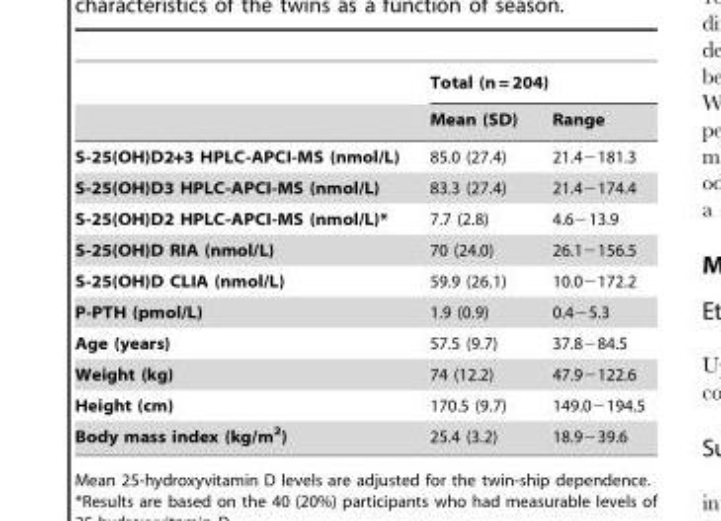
<table><thead><tr><td rowspan="2"></td><td colspan="2">Total (n = 204)</td></tr><tr><td>Mean (SD)</td><td>Range</td></tr></thead><tbody><tr><td>S-25(OH)D2+3 HPLC-APCI-MS (nmol/L)</td><td>85.0 (27.4)</td><td>21.4−181.3</td></tr><tr><td>S-25(OH)D3 HPLC-APCI-MS (nmol/L)</td><td>83.3 (27.4)</td><td>21.4−174.4</td></tr><tr><td>S-25(OH)D2 HPLC-APCI-MS (nmol/L)*</td><td>7.7 (2.8)</td><td>4.6−13.9</td></tr><tr><td>S-25(OH)D RIA (nmol/L)</td><td>70 (24.0)</td><td>26.1−156.5</td></tr><tr><td>S-25(OH)D CLIA (nmol/L)</td><td>59.9 (26.1)</td><td>10.0−172.2</td></tr><tr><td>P-PTH (pmol/L)</td><td>1.9 (0.9)</td><td>0.4−5.3</td></tr><tr><td>Age (years)</td><td>57.5 (9.7)</td><td>37.8−84.5</td></tr><tr><td>Weight (kg)</td><td>74 (12.2)</td><td>47.9−122.6</td></tr><tr><td>Height (cm)</td><td>170.5 (9.7)</td><td>149.0−194.5</td></tr><tr><td>Body mass index (kg/m<sup>2</sup>)</td><td>25.4 (3.2)</td><td>18.9−39.6</td></tr></tbody></table>